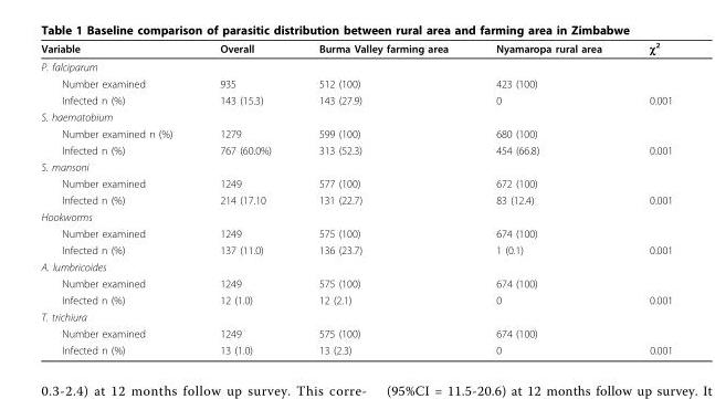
<table><thead><tr><td>Variable</td><td>Overall</td><td>Burma Valley farming area</td><td>Nyamaropa rural area</td><td>χ<sup>2</sup></td></tr></thead><tbody><tr><td colspan="5">P. falciparum</td></tr><tr><td>Number examined</td><td>935</td><td>512 (100)</td><td>423 (100)</td><td></td></tr><tr><td>Infected n (%)</td><td>143 (15.3)</td><td>143 (27.9)</td><td>0</td><td>0.001</td></tr><tr><td colspan="5">S. haematobium</td></tr><tr><td>Number examined n (%)</td><td>1279</td><td>599 (100)</td><td>680 (100)</td><td></td></tr><tr><td>Infected n (%)</td><td>767 (60.0%)</td><td>313 (52.3)</td><td>454 (66.8)</td><td>0.001</td></tr><tr><td colspan="5">S. mansoni</td></tr><tr><td>Number examined</td><td>1249</td><td>577 (100)</td><td>672 (100)</td><td></td></tr><tr><td>Infected n (%)</td><td>214 (17.10</td><td>131 (22.7)</td><td>83 (12.4)</td><td>0.001</td></tr><tr><td colspan="5">Hookworms</td></tr><tr><td>Number examined</td><td>1249</td><td>575 (100)</td><td>674 (100)</td><td></td></tr><tr><td>Infected n (%)</td><td>137 (11.0)</td><td>136 (23.7)</td><td>1 (0.1)</td><td>0.001</td></tr><tr><td colspan="5">A. lumbricoides</td></tr><tr><td>Number examined</td><td>1249</td><td>575 (100)</td><td>674 (100)</td><td></td></tr><tr><td>Infected n (%)</td><td>12 (1.0)</td><td>12 (2.1)</td><td>0</td><td>0.001</td></tr><tr><td colspan="5">T. trichiura</td></tr><tr><td>Number examined</td><td>1249</td><td>575 (100)</td><td>674 (100)</td><td></td></tr><tr><td>Infected n (%)</td><td>13 (1.0)</td><td>13 (2.3)</td><td>0</td><td>0.001</td></tr></tbody></table>